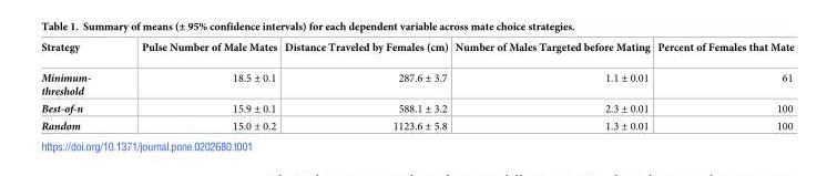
<table><thead><tr><td>Strategy</td><td>Pulse Number of Male Mates</td><td>Distance Traveled by Females (cm)</td><td>Number of Males Targeted before Mating</td><td>Percent of Females that Mate</td></tr></thead><tbody><tr><td>Minimum- threshold</td><td>18.5 ± 0.1</td><td>287.6 ± 3.7</td><td>1.1 ± 0.01</td><td>61</td></tr><tr><td>Best-of-n</td><td>15.9 ± 0.1</td><td>588.1 ± 3.2</td><td>2.3 ± 0.01</td><td>100</td></tr><tr><td>Random</td><td>15.0 ± 0.2</td><td>1123.6 ± 5.8</td><td>1.3 ± 0.01</td><td>100</td></tr></tbody></table>